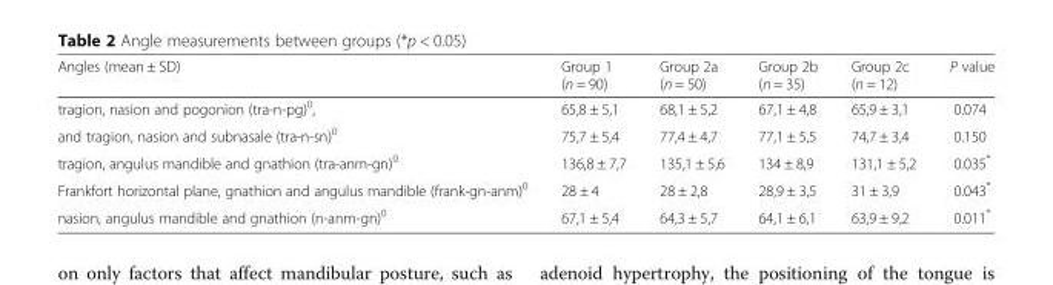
<table><thead><tr><td>Angles (mean ± SD)</td><td>Group 1 (n = 90)</td><td>Group 2a (n = 50)</td><td>Group 2b (n = 35)</td><td>Group 2c (n = 12)</td><td>P value</td></tr></thead><tbody><tr><td>tragion, nasion and pogonion (tra-n-pg)<sup>0</sup>,</td><td>65,8 ± 5,1</td><td>68,1 ± 5,2</td><td>67,1 ± 4,8</td><td>65,9 ± 3,1</td><td>0.074</td></tr><tr><td>and tragion, nasion and subnasale (tra-n-sn)<sup>0</sup></td><td>75,7 ± 5,4</td><td>77,4 ± 4,7</td><td>77,1 ± 5,5</td><td>74,7 ± 3,4</td><td>0.150</td></tr><tr><td>tragion, angulus mandible and gnathion (tra-anm-gn)<sup>0</sup></td><td>136,8 ± 7,7</td><td>135,1 ± 5,6</td><td>134 ± 8,9</td><td>131,1 ± 5,2</td><td>0.035*</td></tr><tr><td>Frankfort horizontal plane, gnathion and angulus mandible (frank-gn-anm)<sup>0</sup></td><td>28 ± 4</td><td>28 ± 2,8</td><td>28,9 ± 3,5</td><td>31 ± 3,9</td><td>0.043*</td></tr><tr><td>nasion, angulus mandible and gnathion (n-anm-gn)<sup>0</sup></td><td>67,1 ± 5,4</td><td>64,3 ± 5,7</td><td>64,1 ± 6,1</td><td>63,9 ± 9,2</td><td>0.011*</td></tr></tbody></table>